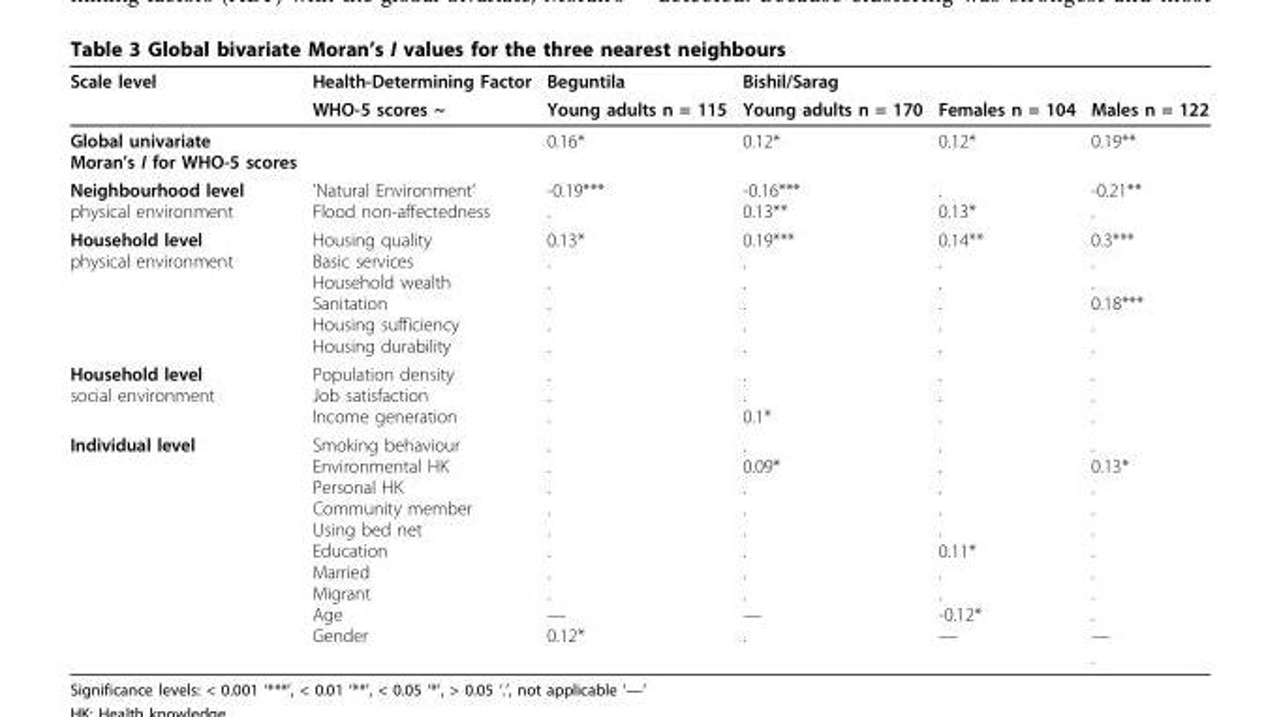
<table><thead><tr><td rowspan="2">Scale level</td><td rowspan="2">Health-Determining Factor WHO-5 scores ~</td><td rowspan="2">Beguntila Young adults n = 115</td><td colspan="3">Bishil/Sarag</td></tr><tr><td>Young adults n = 170</td><td>Females n = 104</td><td>Males n = 122</td></tr></thead><tbody><tr><td>Global univariate Moran’s I for WHO-5 scores</td><td></td><td>0.16*</td><td>0.12*</td><td>0.12*</td><td>0.19**</td></tr><tr><td>Neighbourhood level physical environment</td><td>’Natural Environment’ Flood non-affectedness</td><td>-0.19*** .</td><td>-0.16*** 0.13**</td><td>. 0.13*</td><td>-0.21** .</td></tr><tr><td>Household level physical environment</td><td>Housing quality Basic services Household wealth Sanitation Housing sufficiency Housing durability</td><td>0.13* . . . . .</td><td>0.19*** . . . . .</td><td>0.14** . . . . .</td><td>0.3*** . . 0.18*** . .</td></tr><tr><td>Household level social environment</td><td>Population density Job satisfaction Income generation</td><td>. . .</td><td>. . 0.1*</td><td>. . .</td><td>. . .</td></tr><tr><td>Individual level</td><td>Smoking behaviour Environmental HK Personal HK Community member Using bed net Education Married Migrant Age Gender</td><td>. . . . . . . . — 0.12*</td><td>. 0.09* . . . . . . — .</td><td>. . . . . 0.11* . . -0.12* —</td><td>. 0.13* . . . . . . . —</td></tr></tbody></table>